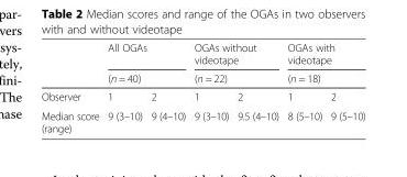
<table><thead><tr><td rowspan="3">Observer</td><td rowspan="2" colspan="2">All OGAs (n = 40)</td><td rowspan="2" colspan="2">OGAs without videotape (n = 22)</td><td rowspan="2" colspan="2">OGAs with videotape (n = 18)</td></tr><tr></tr><tr><td>1</td><td>2</td><td>1</td><td>2</td><td>1</td><td>2</td></tr></thead><tbody><tr><td>Median score (range)</td><td>9 (3–10)</td><td>9 (4–10)</td><td>9 (3–10)</td><td>9.5 (4–10)</td><td>8 (5–10)</td><td>9 (5–10)</td></tr></tbody></table>